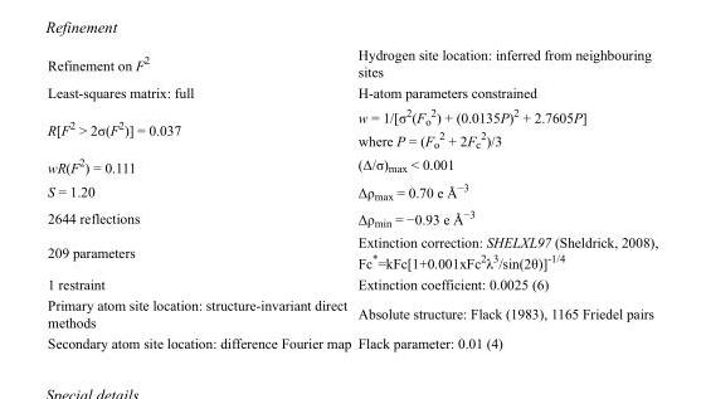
<table><tbody><tr><td>Refinement on F<sup>2</sup></td><td>Hydrogen site location: inferred from neighbouring sites</td></tr><tr><td>Least-squares matrix: full</td><td>H-atom parameters constrained</td></tr><tr><td>R[F<sup>2</sup> &gt; 2σ(F<sup>2</sup>)] = 0.037</td><td>w = 1/[σ<sup>2</sup>(F<sub>o</sub> <sup>2</sup>) + (0.0135P)<sup>2</sup> + 2.7605P] where P = (F<sub>o</sub> <sup>2</sup> + 2F<sub>c</sub> <sup>2</sup>)/3</td></tr><tr><td>wR(F<sup>2</sup>) = 0.111</td><td>(Δ/σ)<sub>max</sub> &lt; 0.001</td></tr><tr><td>S = 1.20</td><td>Δρ<sub>max</sub> = 0.70 e Å<sup>−3</sup></td></tr><tr><td>2644 reflections</td><td>Δρ<sub>min</sub> = −0.93 e Å<sup>−3</sup></td></tr><tr><td>209 parameters</td><td>Extinction correction: SHELXL97 (Sheldrick, 2008), Fc*=kFc[1+0.001xFc<sup>2</sup>λ<sup>3</sup>/sin(2θ)]<sup>-1/4</sup></td></tr><tr><td>1 restraint</td><td>Extinction coefficient: 0.0025 (6)</td></tr><tr><td>Primary atom site location: structure-invariant direct methods</td><td>Absolute structure: Flack (1983), 1165 Friedel pairs</td></tr><tr><td>Secondary atom site location: difference Fourier map</td><td>Flack parameter: 0.01 (4)</td></tr></tbody></table>